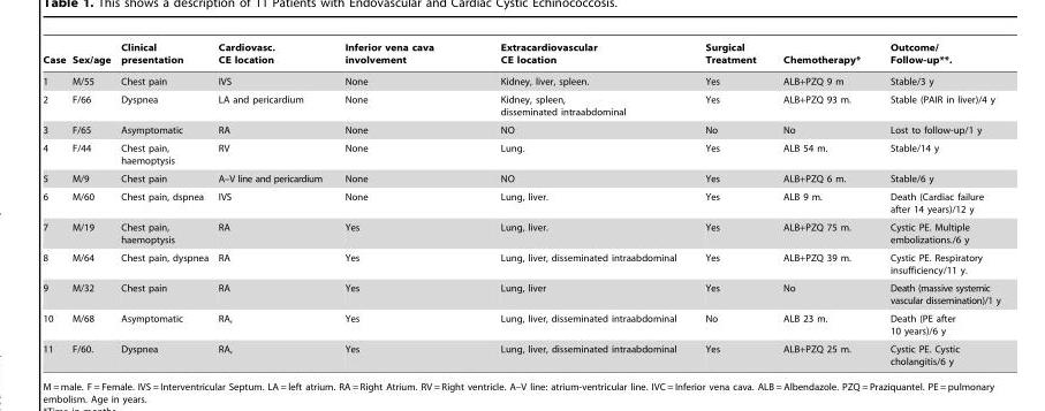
<table><thead><tr><td>Case</td><td>Sex/age</td><td>Clinical presentation</td><td>Cardiovasc. CE location</td><td>Inferior vena cava involvement</td><td>Extracardiovascular CE location</td><td>Surgical Treatment</td><td>Chemotherapy*</td><td>Outcome/ Follow-up**.</td></tr></thead><tbody><tr><td>1</td><td>M/55</td><td>Chest pain</td><td>IVS</td><td>None</td><td>Kidney, liver, spleen.</td><td>Yes</td><td>ALB+PZQ 9 m</td><td>Stable/3 y</td></tr><tr><td>2</td><td>F/66</td><td>Dyspnea</td><td>LA and pericardium</td><td>None</td><td>Kidney, spleen, disseminated intraabdominal</td><td>Yes</td><td>ALB+PZQ 93 m.</td><td>Stable (PAIR in liver)/4 y</td></tr><tr><td>3</td><td>F/65</td><td>Asymptomatic</td><td>RA</td><td>None</td><td>NO</td><td>No</td><td>No</td><td>Lost to follow-up/1 y</td></tr><tr><td>4</td><td>F/44</td><td>Chest pain, haemoptysis</td><td>RV</td><td>None</td><td>Lung.</td><td>Yes</td><td>ALB 54 m.</td><td>Stable/14 y</td></tr><tr><td>5</td><td>M/9</td><td>Chest pain</td><td>A–V line and pericardium</td><td>None</td><td>NO</td><td>Yes</td><td>ALB+PZQ 6 m.</td><td>Stable/6 y</td></tr><tr><td>6</td><td>M/60</td><td>Chest pain, dspnea</td><td>IVS</td><td>None</td><td>Lung, liver.</td><td>Yes</td><td>ALB 9 m.</td><td>Death (Cardiac failure after 14 years)/12 y</td></tr><tr><td>7</td><td>M/19</td><td>Chest pain, haemoptysis</td><td>RA</td><td>Yes</td><td>Lung, liver.</td><td>Yes</td><td>ALB+PZQ 75 m.</td><td>Cystic PE. Multiple embolizations./6 y</td></tr><tr><td>8</td><td>M/64</td><td>Chest pain, dyspnea</td><td>RA</td><td>Yes</td><td>Lung, liver, disseminated intraabdominal</td><td>Yes</td><td>ALB+PZQ 39 m.</td><td>Cystic PE. Respiratory insufficiency/11 y.</td></tr><tr><td>9</td><td>M/32</td><td>Chest pain</td><td>RA</td><td>Yes</td><td>Lung, liver</td><td>Yes</td><td>No</td><td>Death (massive systemic vascular dissemination)/1 y</td></tr><tr><td>10</td><td>M/68</td><td>Asymptomatic</td><td>RA,</td><td>Yes</td><td>Lung, liver, disseminated intraabdominal</td><td>No</td><td>ALB 23 m.</td><td>Death (PE after 10 years)/6 y</td></tr><tr><td>11</td><td>F/60.</td><td>Dyspnea</td><td>RA,</td><td>Yes</td><td>Lung, liver, disseminated intraabdominal</td><td>Yes</td><td>ALB+PZQ 25 m.</td><td>Cystic PE. Cystic cholangitis/6 y</td></tr></tbody></table>